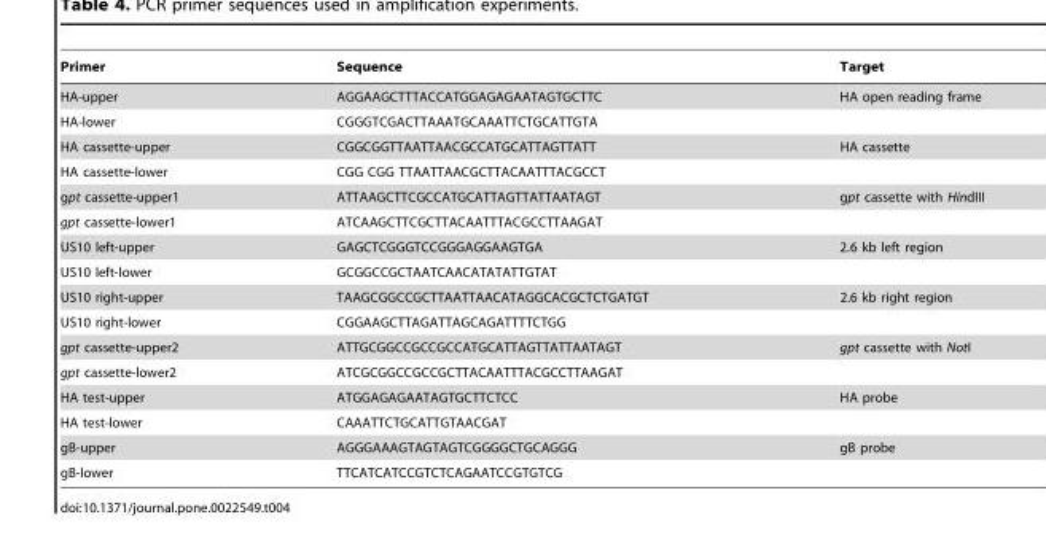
<table><thead><tr><td>Primer</td><td>Sequence</td><td>Target</td></tr></thead><tbody><tr><td>HA-upper</td><td>AGGAAGCTTTACCATGGAGAGAATAGTGCTTC</td><td>HA open reading frame</td></tr><tr><td>HA-lower</td><td>CGGGTCGACTTAAATGCAAATTCTGCATTGTA</td><td></td></tr><tr><td>HA cassette-upper</td><td>CGGCGGTTAATTAACGCCATGCATTAGTTATT</td><td>HA cassette</td></tr><tr><td>HA cassette-lower</td><td>CGG CGG TTAATTAACGCTTACAATTTACGCCT</td><td></td></tr><tr><td>gpt cassette-upper1</td><td>ATTAAGCTTCGCCATGCATTAGTTATTAATAGT</td><td>gpt cassette with HindIII</td></tr><tr><td>gpt cassette-lower1</td><td>ATCAAGCTTCGCTTACAATTTACGCCTTAAGAT</td><td></td></tr><tr><td>US10 left-upper</td><td>GAGCTCGGGTCCGGGAGGAAGTGA</td><td>2.6 kb left region</td></tr><tr><td>US10 left-lower</td><td>GCGGCCGCTAATCAACATATATTGTAT</td><td></td></tr><tr><td>US10 right-upper</td><td>TAAGCGGCCGCTTAATTAACATAGGCACGCTCTGATGT</td><td>2.6 kb right region</td></tr><tr><td>US10 right-lower</td><td>CGGAAGCTTAGATTAGCAGATTTTCTGG</td><td></td></tr><tr><td>gpt cassette-upper2</td><td>ATTGCGGCCGCCGCCATGCATTAGTTATTAATAGT</td><td>gpt cassette with NotI</td></tr><tr><td>gpt cassette-lower2</td><td>ATCGCGGCCGCCGCTTACAATTTACGCCTTAAGAT</td><td></td></tr><tr><td>HA test-upper</td><td>ATGGAGAGAATAGTGCTTCTCC</td><td>HA probe</td></tr><tr><td>HA test-lower</td><td>CAAATTCTGCATTGTAACGAT</td><td></td></tr><tr><td>gB-upper</td><td>AGGGAAAGTAGTAGTCGGGGCTGCAGGG</td><td>gB probe</td></tr><tr><td>gB-lower</td><td>TTCATCATCCGTCTCAGAATCCGTGTCG</td><td></td></tr></tbody></table>